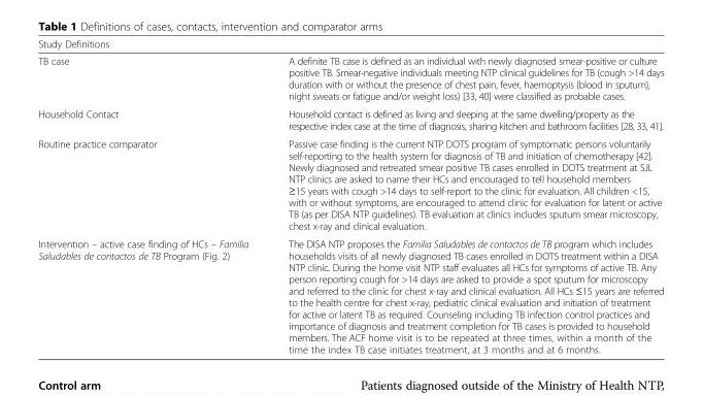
<table><thead><tr><td>Study Definitions</td><td></td></tr></thead><tbody><tr><td>TB case</td><td>A definite TB case is defined as an individual with newly diagnosed smear-positive or culture positive TB. Smear-negative individuals meeting NTP clinical guidelines for TB (cough &gt;14 days duration with or without the presence of chest pain, fever, haemoptysis (blood in sputum), night sweats or fatigue and/or weight loss) [33, 40] were classified as probable cases.</td></tr><tr><td>Household Contact</td><td>Household contact is defined as living and sleeping at the same dwelling/property as the respective index case at the time of diagnosis, sharing kitchen and bathroom facilities [28, 33, 41].</td></tr><tr><td>Routine practice comparator</td><td>Passive case finding is the current NTP DOTS program of symptomatic persons voluntarily self-reporting to the health system for diagnosis of TB and initiation of chemotherapy [42]. Newly diagnosed and retreated smear positive TB cases enrolled in DOTS treatment at SJL NTP clinics are asked to name their HCs and encouraged to tell household members ≥15 years with cough &gt;14 days to self-report to the clinic for evaluation. All children &lt;15, with or without symptoms, are encouraged to attend clinic for evaluation for latent or active TB (as per DISA NTP guidelines). TB evaluation at clinics includes sputum smear microscopy, chest x-ray and clinical evaluation.</td></tr><tr><td>Intervention – active case finding of HCs – Familia Saludables de contactos de TB Program (Fig. 2)</td><td>The DISA NTP proposes the Familia Saludables de contactos de TB program which includes households visits of all newly diagnosed TB cases enrolled in DOTS treatment within a DISA NTP clinic. During the home visit NTP staff evaluates all HCs for symptoms of active TB. Any person reporting cough for &gt;14 days are asked to provide a spot sputum for microscopy and referred to the clinic for chest x-ray and clinical evaluation. All HCs ≤15 years are referred to the health centre for chest x-ray, pediatric clinical evaluation and initiation of treatment for active or latent TB as required. Counseling including TB infection control practices and importance of diagnosis and treatment completion for TB cases is provided to household members. The ACF home visit is to be repeated at three times, within a month of the time the index TB case initiates treatment, at 3 months and at 6 months.</td></tr></tbody></table>